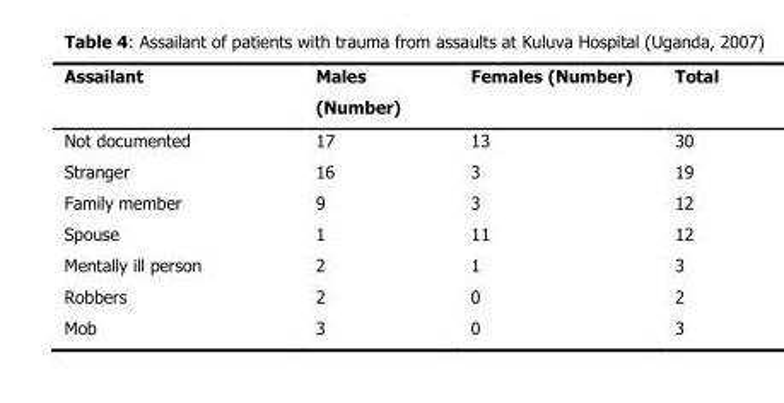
<table><thead><tr><td>Assailant</td><td>Males (Number)</td><td>Females (Number)</td><td>Total</td></tr></thead><tbody><tr><td>Not documented</td><td>17</td><td>13</td><td>30</td></tr><tr><td>Stranger</td><td>16</td><td>3</td><td>19</td></tr><tr><td>Family member</td><td>9</td><td>3</td><td>12</td></tr><tr><td>Spouse</td><td>1</td><td>11</td><td>12</td></tr><tr><td>Mentally ill person</td><td>2</td><td>1</td><td>3</td></tr><tr><td>Robbers</td><td>2</td><td>0</td><td>2</td></tr><tr><td>Mob</td><td>3</td><td>0</td><td>3</td></tr></tbody></table>